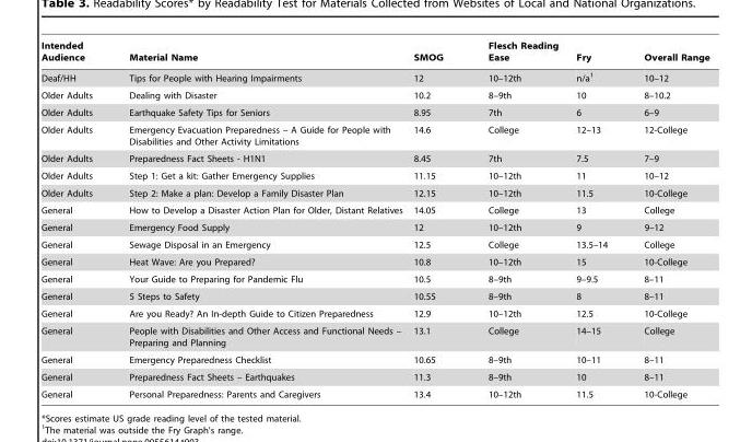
<table><thead><tr><td>Intended Audience</td><td>Material Name</td><td>SMOG</td><td>Flesch Reading Ease</td><td>Fry</td><td>Overall Range</td></tr></thead><tbody><tr><td>Deaf/HH</td><td>Tips for People with Hearing Impairments</td><td>12</td><td>10–12th</td><td>n/a<sup>1</sup></td><td>10–12</td></tr><tr><td>Older Adults</td><td>Dealing with Disaster</td><td>10.2</td><td>8–9th</td><td>10</td><td>8–10.2</td></tr><tr><td>Older Adults</td><td>Earthquake Safety Tips for Seniors</td><td>8.95</td><td>7th</td><td>6</td><td>6–9</td></tr><tr><td>Older Adults</td><td>Emergency Evacuation Preparedness – A Guide for People with Disabilities and Other Activity Limitations</td><td>14.6</td><td>College</td><td>12–13</td><td>12-College</td></tr><tr><td>Older Adults</td><td>Preparedness Fact Sheets - H1N1</td><td>8.45</td><td>7th</td><td>7.5</td><td>7–9</td></tr><tr><td>Older Adults</td><td>Step 1: Get a kit: Gather Emergency Supplies</td><td>11.15</td><td>10–12th</td><td>11</td><td>10–12</td></tr><tr><td>Older Adults</td><td>Step 2: Make a plan: Develop a Family Disaster Plan</td><td>12.15</td><td>10–12th</td><td>11.5</td><td>10-College</td></tr><tr><td>General</td><td>How to Develop a Disaster Action Plan for Older, Distant Relatives</td><td>14.05</td><td>College</td><td>13</td><td>College</td></tr><tr><td>General</td><td>Emergency Food Supply</td><td>12</td><td>10–12th</td><td>9</td><td>9–12</td></tr><tr><td>General</td><td>Sewage Disposal in an Emergency</td><td>12.5</td><td>College</td><td>13.5–14</td><td>College</td></tr><tr><td>General</td><td>Heat Wave: Are you Prepared?</td><td>10.8</td><td>10–12th</td><td>15</td><td>10-College</td></tr><tr><td>General</td><td>Your Guide to Preparing for Pandemic Flu</td><td>10.5</td><td>8–9th</td><td>9–9.5</td><td>8–11</td></tr><tr><td>General</td><td>5 Steps to Safety</td><td>10.55</td><td>8–9th</td><td>8</td><td>8–11</td></tr><tr><td>General</td><td>Are you Ready? An In-depth Guide to Citizen Preparedness</td><td>12.9</td><td>10–12th</td><td>12.5</td><td>10-College</td></tr><tr><td>General</td><td>People with Disabilities and Other Access and Functional Needs – Preparing and Planning</td><td>13.1</td><td>College</td><td>14–15</td><td>College</td></tr><tr><td>General</td><td>Emergency Preparedness Checklist</td><td>10.65</td><td>8–9th</td><td>10–11</td><td>8–11</td></tr><tr><td>General</td><td>Preparedness Fact Sheets – Earthquakes</td><td>11.3</td><td>8–9th</td><td>10</td><td>8–11</td></tr><tr><td>General</td><td>Personal Preparedness: Parents and Caregivers</td><td>13.4</td><td>10–12th</td><td>11.5</td><td>10-College</td></tr></tbody></table>